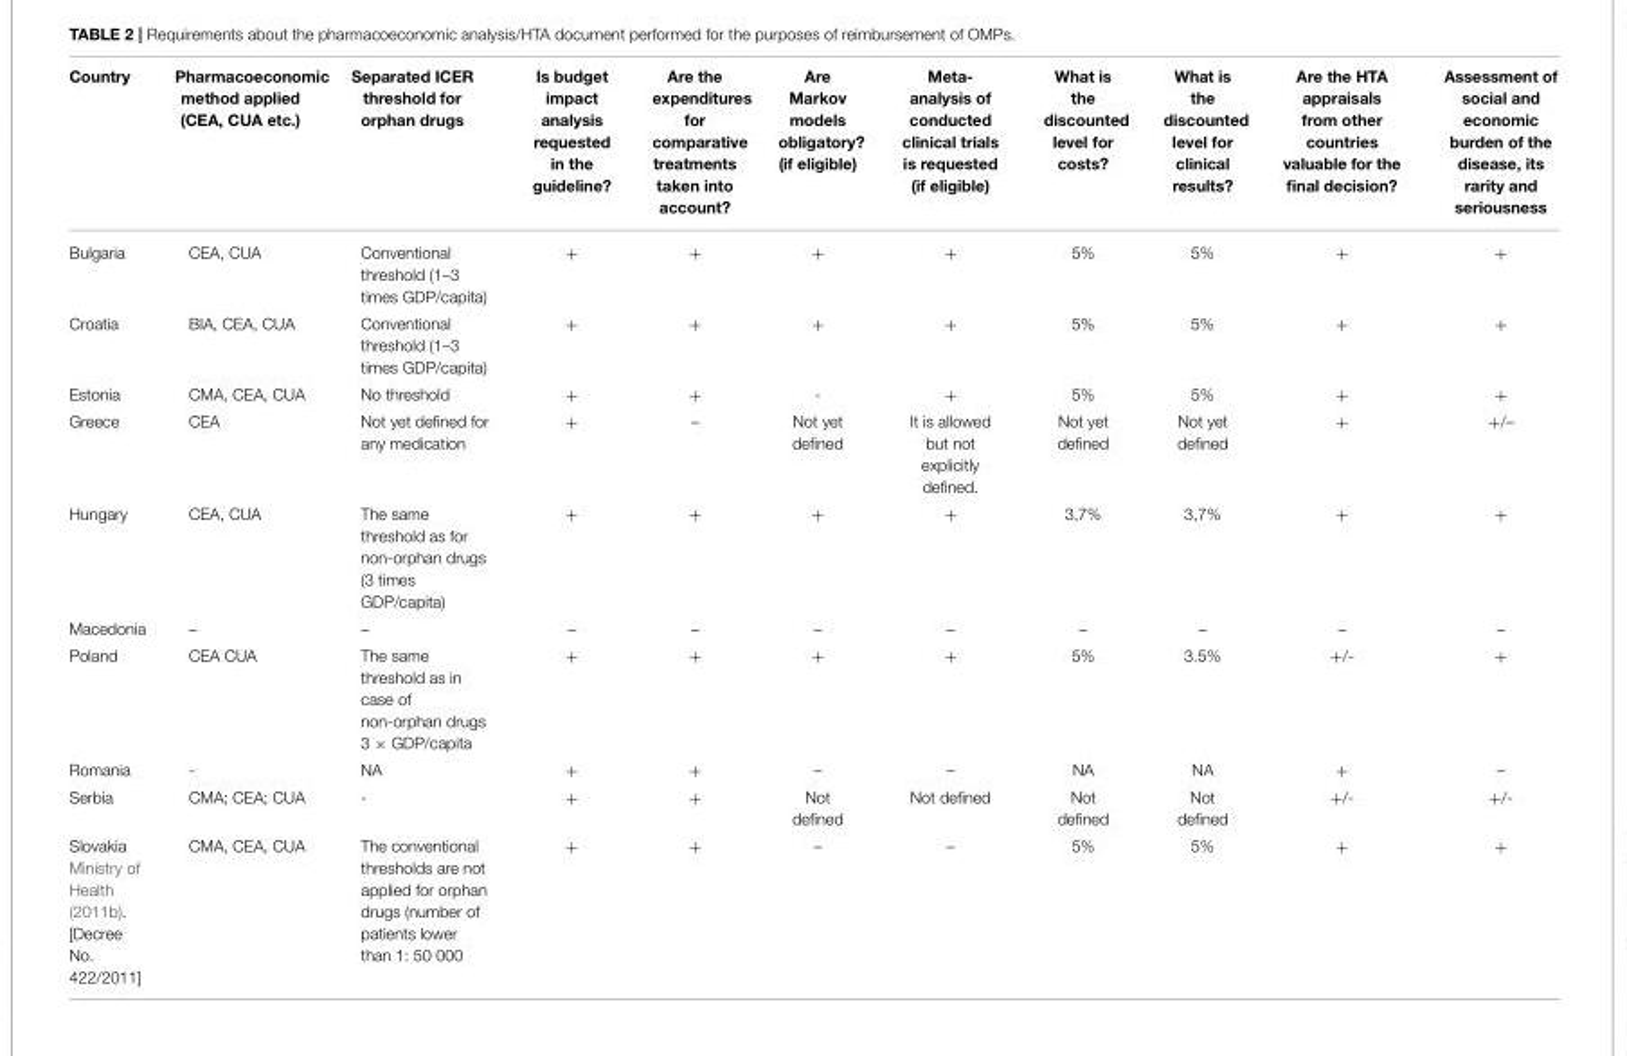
<table><thead><tr><td>Country</td><td>Pharmacoeconomic method applied (CEA, CUA etc.)</td><td>Separated ICER threshold for orphan drugs</td><td>Is budget impact analysis requested in the guideline?</td><td>Are the expenditures for comparative treatments taken into account?</td><td>Are Markov models obligatory? (if eligible)</td><td>Meta- analysis of conducted clinical trials is requested (if eligible)</td><td>What is the discounted level for costs?</td><td>What is the discounted level for clinical results?</td><td>Are the HTA appraisals from other countries valuable for the final decision?</td><td>Assessment of social and economic burden of the disease, its rarity and seriousness</td></tr></thead><tbody><tr><td>Bulgaria</td><td>CEA, CUA</td><td>Conventional threshold (1–3 times GDP/capita)</td><td>+</td><td>+</td><td>+</td><td>+</td><td>5%</td><td>5%</td><td>+</td><td>+</td></tr><tr><td>Croatia</td><td>BIA, CEA, CUA</td><td>Conventional threshold (1–3 times GDP/capita)</td><td>+</td><td>+</td><td>+</td><td>+</td><td>5%</td><td>5%</td><td>+</td><td>+</td></tr><tr><td>Estonia</td><td>CMA, CEA, CUA</td><td>No threshold</td><td>+</td><td>+</td><td>-</td><td>+</td><td>5%</td><td>5%</td><td>+</td><td>+</td></tr><tr><td>Greece</td><td>CEA</td><td>Not yet defined for any medication</td><td>+</td><td>–</td><td>Not yet defined</td><td>It is allowed but not explicitly defined.</td><td>Not yet defined</td><td>Not yet defined</td><td>+</td><td>+/–</td></tr><tr><td>Hungary</td><td>CEA, CUA</td><td>The same threshold as for non-orphan drugs (3 times GDP/capita)</td><td>+</td><td>+</td><td>+</td><td>+</td><td>3,7%</td><td>3,7%</td><td>+</td><td>+</td></tr><tr><td>Macedonia</td><td>–</td><td>–</td><td>–</td><td>–</td><td>–</td><td>–</td><td>–</td><td>–</td><td>–</td><td>–</td></tr><tr><td>Poland</td><td>CEA CUA</td><td>The same threshold as in case of non-orphan drugs 3 × GDP/capita</td><td>+</td><td>+</td><td>+</td><td>+</td><td>5%</td><td>3.5%</td><td>+/-</td><td>+</td></tr><tr><td>Romania</td><td>-</td><td>NA</td><td>+</td><td>+</td><td>–</td><td>–</td><td>NA</td><td>NA</td><td>+</td><td>–</td></tr><tr><td>Serbia</td><td>CMA; CEA; CUA</td><td>-</td><td>+</td><td>+</td><td>Not defined</td><td>Not defined</td><td>Not defined</td><td>Not defined</td><td>+/-</td><td>+/-</td></tr><tr><td>Slovakia Ministry of Health (2011b). [Decree No. 422/2011]</td><td>CMA, CEA, CUA</td><td>The conventional thresholds are not applied for orphan drugs (number of patients lower than 1: 50 000</td><td>+</td><td>+</td><td>–</td><td>–</td><td>5%</td><td>5%</td><td>+</td><td>+</td></tr></tbody></table>